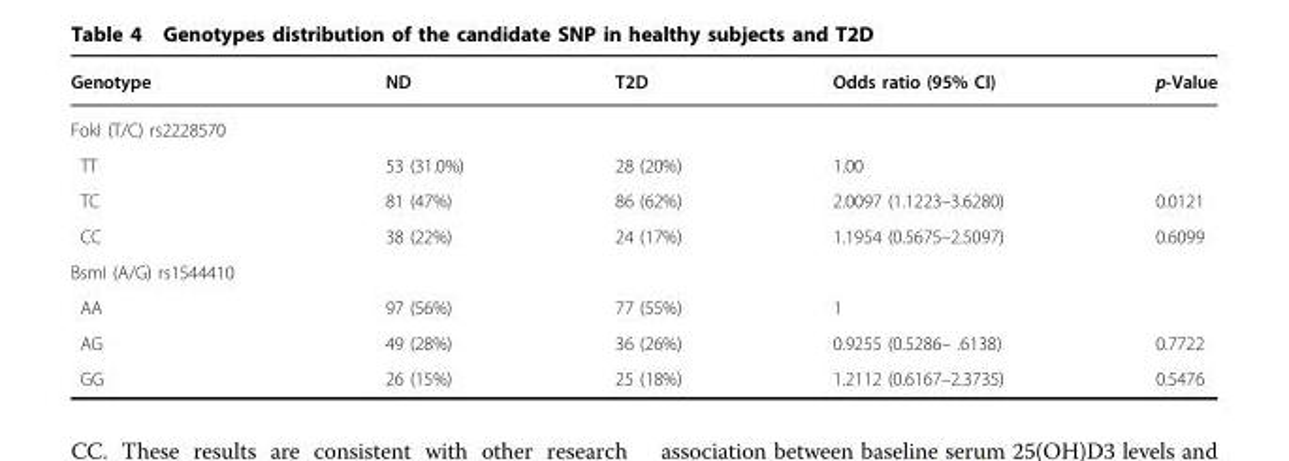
<table><thead><tr><td>Genotype</td><td>ND</td><td>T2D</td><td>Odds ratio (95% CI)</td><td>p-Value</td></tr></thead><tbody><tr><td colspan="5">FokI (T/C) rs2228570</td></tr><tr><td>TT</td><td>53 (31.0%)</td><td>28 (20%)</td><td>1.00</td><td></td></tr><tr><td>TC</td><td>81 (47%)</td><td>86 (62%)</td><td>2.0097 (1.1223–3.6280)</td><td>0.0121</td></tr><tr><td>CC</td><td>38 (22%)</td><td>24 (17%)</td><td>1.1954 (0.5675–2.5097)</td><td>0.6099</td></tr><tr><td colspan="5">BsmI (A/G) rs1544410</td></tr><tr><td>AA</td><td>97 (56%)</td><td>77 (55%)</td><td>1</td><td></td></tr><tr><td>AG</td><td>49 (28%)</td><td>36 (26%)</td><td>0.9255 (0.5286– .6138)</td><td>0.7722</td></tr><tr><td>GG</td><td>26 (15%)</td><td>25 (18%)</td><td>1.2112 (0.6167–2.3735)</td><td>0.5476</td></tr></tbody></table>